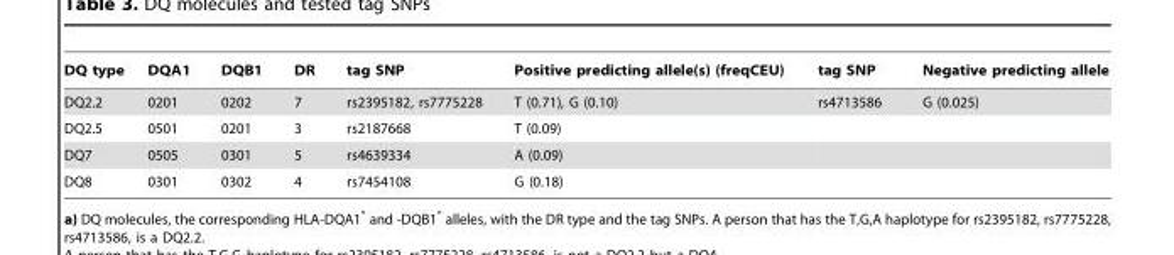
<table><thead><tr><td>DQ type</td><td>DQA1</td><td>DQB1</td><td>DR</td><td>tag SNP</td><td>Positive predicting allele(s) (freqCEU)</td><td>tag SNP</td><td>Negative predicting allele</td></tr></thead><tbody><tr><td>DQ2.2</td><td>0201</td><td>0202</td><td>7</td><td>rs2395182, rs7775228</td><td>T (0.71), G (0.10)</td><td>rs4713586</td><td>G (0.025)</td></tr><tr><td>DQ2.5</td><td>0501</td><td>0201</td><td>3</td><td>rs2187668</td><td>T (0.09)</td><td></td><td></td></tr><tr><td>DQ7</td><td>0505</td><td>0301</td><td>5</td><td>rs4639334</td><td>A (0.09)</td><td></td><td></td></tr><tr><td>DQ8</td><td>0301</td><td>0302</td><td>4</td><td>rs7454108</td><td>G (0.18)</td><td></td><td></td></tr></tbody></table>